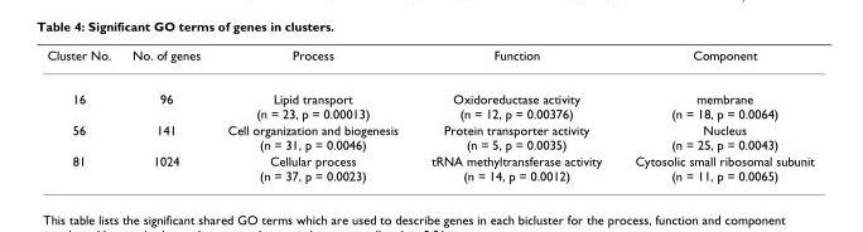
<table><thead><tr><td>Cluster No.</td><td>No. of genes</td><td>Process</td><td>Function</td><td>Component</td></tr></thead><tbody><tr><td>16</td><td>96</td><td>Lipid transport (n = 23, p = 0.00013)</td><td>Oxidoreductase activity (n = 12, p = 0.00376)</td><td>membrane (n = 18, p = 0.0064)</td></tr><tr><td>56</td><td>141</td><td>Cell organization and biogenesis (n = 31, p = 0.0046)</td><td>Protein transporter activity (n = 5, p = 0.0035)</td><td>Nucleus (n = 25, p = 0.0043)</td></tr><tr><td>81</td><td>1024</td><td>Cellular process (n = 37, p = 0.0023)</td><td>tRNA methyltransferase activity (n = 14, p = 0.0012)</td><td>Cytosolic small ribosomal subunit (n = 11, p = 0.0065)</td></tr></tbody></table>